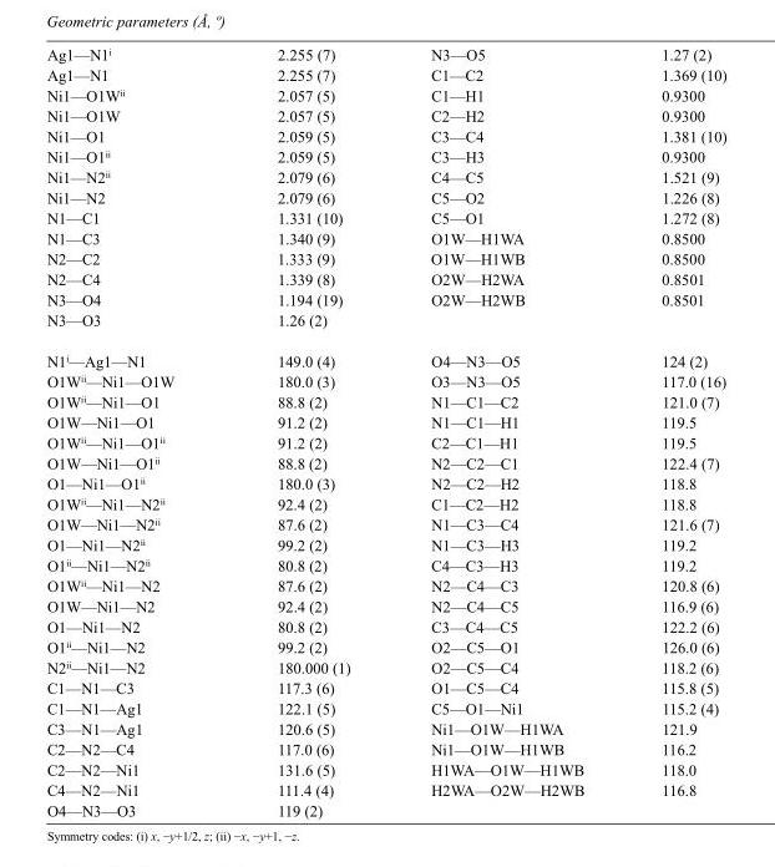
<table><tbody><tr><td>Ag1—N1<sup>i</sup></td><td>2.255 (7)</td><td>N3—O5</td><td>1.27 (2)</td></tr><tr><td>Ag1—N1</td><td>2.255 (7)</td><td>C1—C2</td><td>1.369 (10)</td></tr><tr><td>Ni1—O1W<sup>ii</sup></td><td>2.057 (5)</td><td>C1—H1</td><td>0.9300</td></tr><tr><td>Ni1—O1W</td><td>2.057 (5)</td><td>C2—H2</td><td>0.9300</td></tr><tr><td>Ni1—O1</td><td>2.059 (5)</td><td>C3—C4</td><td>1.381 (10)</td></tr><tr><td>Ni1—O1<sup>ii</sup></td><td>2.059 (5)</td><td>C3—H3</td><td>0.9300</td></tr><tr><td>Ni1—N2<sup>ii</sup></td><td>2.079 (6)</td><td>C4—C5</td><td>1.521 (9)</td></tr><tr><td>Ni1—N2</td><td>2.079 (6)</td><td>C5—O2</td><td>1.226 (8)</td></tr><tr><td>N1—C1</td><td>1.331 (10)</td><td>C5—O1</td><td>1.272 (8)</td></tr><tr><td>N1—C3</td><td>1.340 (9)</td><td>O1W—H1WA</td><td>0.8500</td></tr><tr><td>N2—C2</td><td>1.333 (9)</td><td>O1W—H1WB</td><td>0.8500</td></tr><tr><td>N2—C4</td><td>1.339 (8)</td><td>O2W—H2WA</td><td>0.8501</td></tr><tr><td>N3—O4</td><td>1.194 (19)</td><td>O2W—H2WB</td><td>0.8501</td></tr><tr><td>N3—O3</td><td>1.26 (2)</td><td></td><td></td></tr><tr><td>N1<sup>i</sup>—Ag1—N1</td><td>149.0 (4)</td><td>O4—N3—O5</td><td>124 (2)</td></tr><tr><td>O1W<sup>ii</sup>—Ni1—O1W</td><td>180.0 (3)</td><td>O3—N3—O5</td><td>117.0 (16)</td></tr><tr><td>O1W<sup>ii</sup>—Ni1—O1</td><td>88.8 (2)</td><td>N1—C1—C2</td><td>121.0 (7)</td></tr><tr><td>O1W—Ni1—O1</td><td>91.2 (2)</td><td>N1—C1—H1</td><td>119.5</td></tr><tr><td>O1W<sup>ii</sup>—Ni1—O1<sup>ii</sup></td><td>91.2 (2)</td><td>C2—C1—H1</td><td>119.5</td></tr><tr><td>O1W—Ni1—O1<sup>ii</sup></td><td>88.8 (2)</td><td>N2—C2—C1</td><td>122.4 (7)</td></tr><tr><td>O1—Ni1—O1<sup>ii</sup></td><td>180.0 (3)</td><td>N2—C2—H2</td><td>118.8</td></tr><tr><td>O1W<sup>ii</sup>—Ni1—N2<sup>ii</sup></td><td>92.4 (2)</td><td>C1—C2—H2</td><td>118.8</td></tr><tr><td>O1W—Ni1—N2<sup>ii</sup></td><td>87.6 (2)</td><td>N1—C3—C4</td><td>121.6 (7)</td></tr><tr><td>O1—Ni1—N2<sup>ii</sup></td><td>99.2 (2)</td><td>N1—C3—H3</td><td>119.2</td></tr><tr><td>O1<sup>ii</sup>—Ni1—N2<sup>ii</sup></td><td>80.8 (2)</td><td>C4—C3—H3</td><td>119.2</td></tr><tr><td>O1W<sup>ii</sup>—Ni1—N2</td><td>87.6 (2)</td><td>N2—C4—C3</td><td>120.8 (6)</td></tr><tr><td>O1W—Ni1—N2</td><td>92.4 (2)</td><td>N2—C4—C5</td><td>116.9 (6)</td></tr><tr><td>O1—Ni1—N2</td><td>80.8 (2)</td><td>C3—C4—C5</td><td>122.2 (6)</td></tr><tr><td>O1<sup>ii</sup>—Ni1—N2</td><td>99.2 (2)</td><td>O2—C5—O1</td><td>126.0 (6)</td></tr><tr><td>N2<sup>ii</sup>—Ni1—N2</td><td>180.000 (1)</td><td>O2—C5—C4</td><td>118.2 (6)</td></tr><tr><td>C1—N1—C3</td><td>117.3 (6)</td><td>O1—C5—C4</td><td>115.8 (5)</td></tr><tr><td>C1—N1—Ag1</td><td>122.1 (5)</td><td>C5—O1—Ni1</td><td>115.2 (4)</td></tr><tr><td>C3—N1—Ag1</td><td>120.6 (5)</td><td>Ni1—O1W—H1WA</td><td>121.9</td></tr><tr><td>C2—N2—C4</td><td>117.0 (6)</td><td>Ni1—O1W—H1WB</td><td>116.2</td></tr><tr><td>C2—N2—Ni1</td><td>131.6 (5)</td><td>H1WA—O1W—H1WB</td><td>118.0</td></tr><tr><td>C4—N2—Ni1</td><td>111.4 (4)</td><td>H2WA—O2W—H2WB</td><td>116.8</td></tr><tr><td>O4—N3—O3</td><td>119 (2)</td><td></td><td></td></tr></tbody></table>